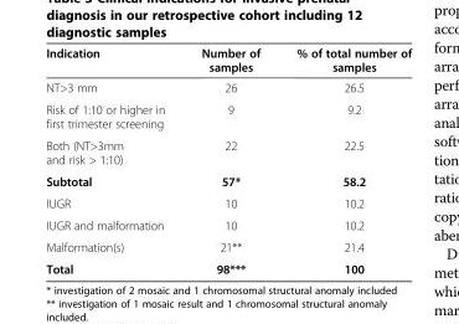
<table><thead><tr><td>Indication</td><td>Number of samples</td><td>% of total number of samples</td></tr></thead><tbody><tr><td>NT&gt;3 mm</td><td>26</td><td>26.5</td></tr><tr><td>Risk of 1:10 or higher in first trimester screening</td><td>9</td><td>9.2</td></tr><tr><td>Both (NT&gt;3mm and risk &gt; 1:10)</td><td>22</td><td>22.5</td></tr><tr><td>Subtotal</td><td>57*</td><td>58.2</td></tr><tr><td>IUGR</td><td>10</td><td>10.2</td></tr><tr><td>IUGR and malformation</td><td>10</td><td>10.2</td></tr><tr><td>Malformation(s)</td><td>21**</td><td>21.4</td></tr><tr><td>Total</td><td>98***</td><td>100</td></tr></tbody></table>